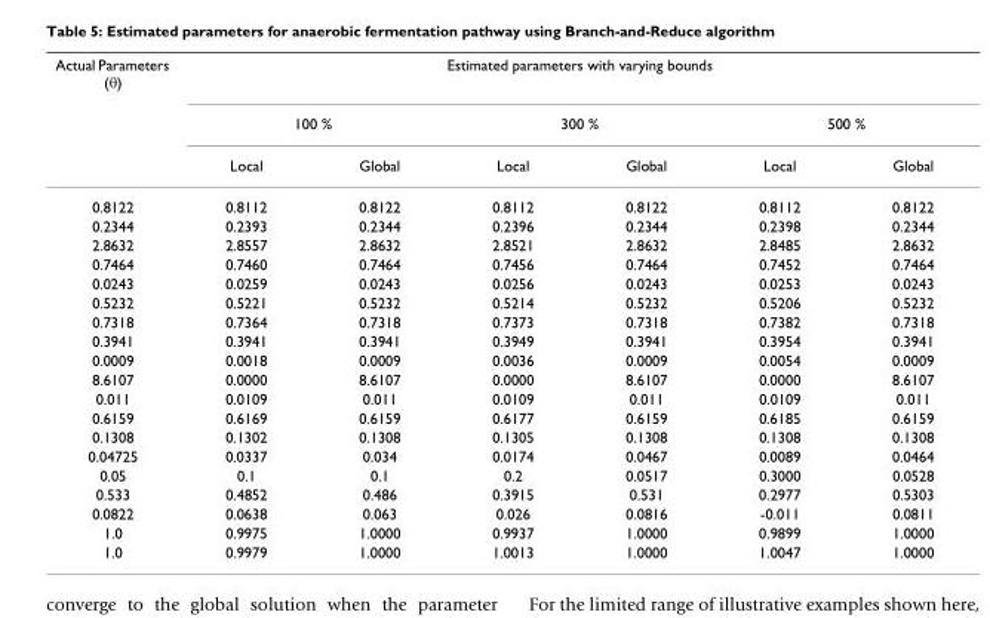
<table><thead><tr><td rowspan="3">Actual Parameters (θ)</td><td colspan="6">Estimated parameters with varying bounds</td></tr><tr><td colspan="2">100 %</td><td colspan="2">300 %</td><td colspan="2">500 %</td></tr><tr><td>Local</td><td>Global</td><td>Local</td><td>Global</td><td>Local</td><td>Global</td></tr></thead><tbody><tr><td>0.8122</td><td>0.8112</td><td>0.8122</td><td>0.8112</td><td>0.8122</td><td>0.8112</td><td>0.8122</td></tr><tr><td>0.2344</td><td>0.2393</td><td>0.2344</td><td>0.2396</td><td>0.2344</td><td>0.2398</td><td>0.2344</td></tr><tr><td>2.8632</td><td>2.8557</td><td>2.8632</td><td>2.8521</td><td>2.8632</td><td>2.8485</td><td>2.8632</td></tr><tr><td>0.7464</td><td>0.7460</td><td>0.7464</td><td>0.7456</td><td>0.7464</td><td>0.7452</td><td>0.7464</td></tr><tr><td>0.0243</td><td>0.0259</td><td>0.0243</td><td>0.0256</td><td>0.0243</td><td>0.0253</td><td>0.0243</td></tr><tr><td>0.5232</td><td>0.5221</td><td>0.5232</td><td>0.5214</td><td>0.5232</td><td>0.5206</td><td>0.5232</td></tr><tr><td>0.7318</td><td>0.7364</td><td>0.7318</td><td>0.7373</td><td>0.7318</td><td>0.7382</td><td>0.7318</td></tr><tr><td>0.3941</td><td>0.3941</td><td>0.3941</td><td>0.3949</td><td>0.3941</td><td>0.3954</td><td>0.3941</td></tr><tr><td>0.0009</td><td>0.0018</td><td>0.0009</td><td>0.0036</td><td>0.0009</td><td>0.0054</td><td>0.0009</td></tr><tr><td>8.6107</td><td>0.0000</td><td>8.6107</td><td>0.0000</td><td>8.6107</td><td>0.0000</td><td>8.6107</td></tr><tr><td>0.011</td><td>0.0109</td><td>0.011</td><td>0.0109</td><td>0.011</td><td>0.0109</td><td>0.011</td></tr><tr><td>0.6159</td><td>0.6169</td><td>0.6159</td><td>0.6177</td><td>0.6159</td><td>0.6185</td><td>0.6159</td></tr><tr><td>0.1308</td><td>0.1302</td><td>0.1308</td><td>0.1305</td><td>0.1308</td><td>0.1308</td><td>0.1308</td></tr><tr><td>0.04725</td><td>0.0337</td><td>0.034</td><td>0.0174</td><td>0.0467</td><td>0.0089</td><td>0.0464</td></tr><tr><td>0.05</td><td>0.1</td><td>0.1</td><td>0.2</td><td>0.0517</td><td>0.3000</td><td>0.0528</td></tr><tr><td>0.533</td><td>0.4852</td><td>0.486</td><td>0.3915</td><td>0.531</td><td>0.2977</td><td>0.5303</td></tr><tr><td>0.0822</td><td>0.0638</td><td>0.063</td><td>0.026</td><td>0.0816</td><td>-0.011</td><td>0.0811</td></tr><tr><td>1.0</td><td>0.9975</td><td>1.0000</td><td>0.9937</td><td>1.0000</td><td>0.9899</td><td>1.0000</td></tr><tr><td>1.0</td><td>0.9979</td><td>1.0000</td><td>1.0013</td><td>1.0000</td><td>1.0047</td><td>1.0000</td></tr></tbody></table>